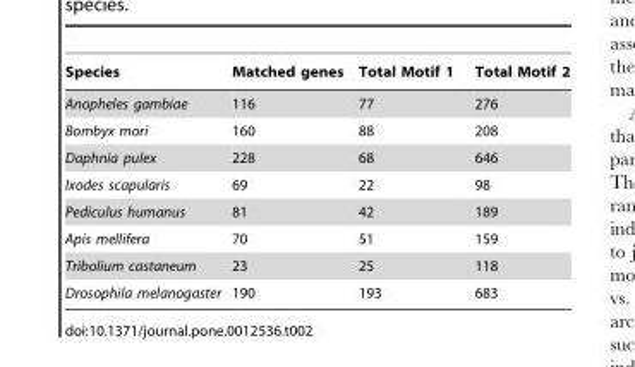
<table><thead><tr><td>Species</td><td>Matched genes</td><td>Total Motif 1</td><td>Total Motif 2</td></tr></thead><tbody><tr><td>Anopheles gambiae</td><td>116</td><td>77</td><td>276</td></tr><tr><td>Bombyx mori</td><td>160</td><td>88</td><td>208</td></tr><tr><td>Daphnia pulex</td><td>228</td><td>68</td><td>646</td></tr><tr><td>Ixodes scapularis</td><td>69</td><td>22</td><td>98</td></tr><tr><td>Pediculus humanus</td><td>81</td><td>42</td><td>189</td></tr><tr><td>Apis mellifera</td><td>70</td><td>51</td><td>159</td></tr><tr><td>Tribolium castaneum</td><td>23</td><td>25</td><td>118</td></tr><tr><td>Drosophila melanogaster</td><td>190</td><td>193</td><td>683</td></tr></tbody></table>